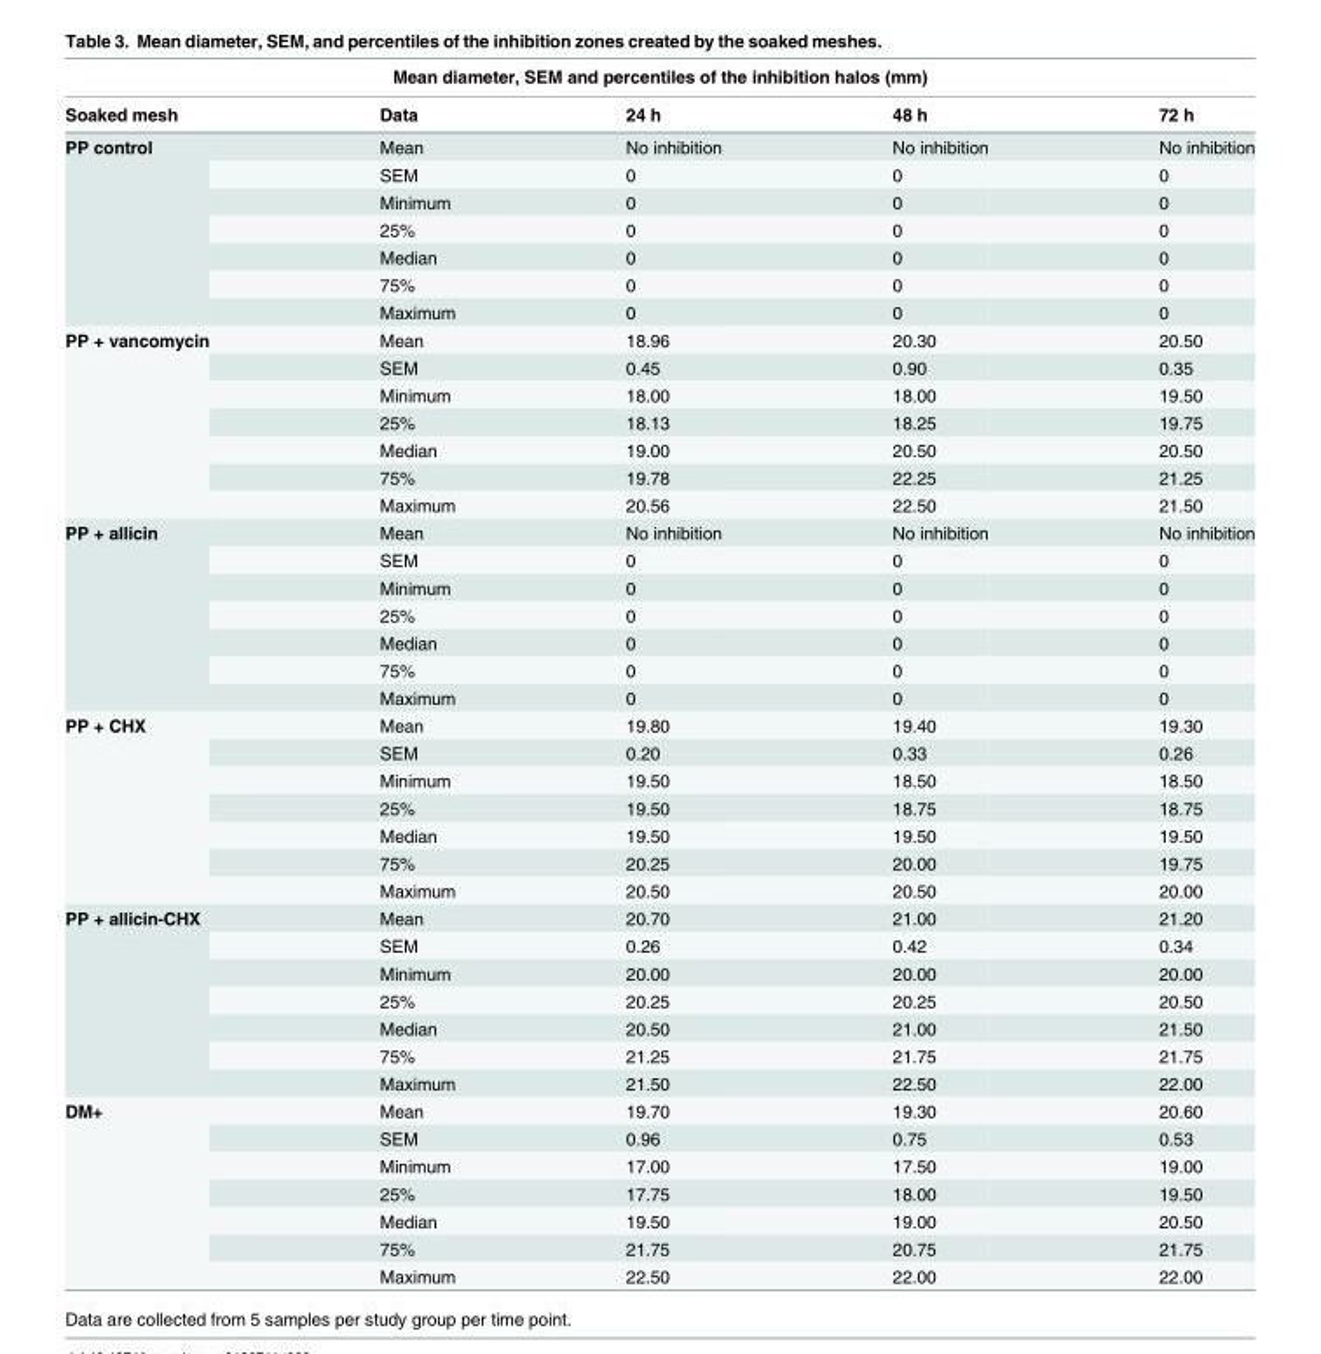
<table><thead><tr><td colspan="5">Mean diameter, SEM and percentiles of the inhibition halos (mm)</td></tr><tr><td>Soaked mesh</td><td>Data</td><td>24 h</td><td>48 h</td><td>72 h</td></tr></thead><tbody><tr><td rowspan="7">PP control</td><td>Mean</td><td>No inhibition</td><td>No inhibition</td><td>No inhibition</td></tr><tr><td>SEM</td><td>0</td><td>0</td><td>0</td></tr><tr><td>Minimum</td><td>0</td><td>0</td><td>0</td></tr><tr><td>25%</td><td>0</td><td>0</td><td>0</td></tr><tr><td>Median</td><td>0</td><td>0</td><td>0</td></tr><tr><td>75%</td><td>0</td><td>0</td><td>0</td></tr><tr><td>Maximum</td><td>0</td><td>0</td><td>0</td></tr><tr><td rowspan="7">PP + vancomycin</td><td>Mean</td><td>18.96</td><td>20.30</td><td>20.50</td></tr><tr><td>SEM</td><td>0.45</td><td>0.90</td><td>0.35</td></tr><tr><td>Minimum</td><td>18.00</td><td>18.00</td><td>19.50</td></tr><tr><td>25%</td><td>18.13</td><td>18.25</td><td>19.75</td></tr><tr><td>Median</td><td>19.00</td><td>20.50</td><td>20.50</td></tr><tr><td>75%</td><td>19.78</td><td>22.25</td><td>21.25</td></tr><tr><td>Maximum</td><td>20.56</td><td>22.50</td><td>21.50</td></tr><tr><td rowspan="7">PP + allicin</td><td>Mean</td><td>No inhibition</td><td>No inhibition</td><td>No inhibition</td></tr><tr><td>SEM</td><td>0</td><td>0</td><td>0</td></tr><tr><td>Minimum</td><td>0</td><td>0</td><td>0</td></tr><tr><td>25%</td><td>0</td><td>0</td><td>0</td></tr><tr><td>Median</td><td>0</td><td>0</td><td>0</td></tr><tr><td>75%</td><td>0</td><td>0</td><td>0</td></tr><tr><td>Maximum</td><td>0</td><td>0</td><td>0</td></tr><tr><td rowspan="7">PP + CHX</td><td>Mean</td><td>19.80</td><td>19.40</td><td>19.30</td></tr><tr><td>SEM</td><td>0.20</td><td>0.33</td><td>0.26</td></tr><tr><td>Minimum</td><td>19.50</td><td>18.50</td><td>18.50</td></tr><tr><td>25%</td><td>19.50</td><td>18.75</td><td>18.75</td></tr><tr><td>Median</td><td>19.50</td><td>19.50</td><td>19.50</td></tr><tr><td>75%</td><td>20.25</td><td>20.00</td><td>19.75</td></tr><tr><td>Maximum</td><td>20.50</td><td>20.50</td><td>20.00</td></tr><tr><td rowspan="7">PP + allicin-CHX</td><td>Mean</td><td>20.70</td><td>21.00</td><td>21.20</td></tr><tr><td>SEM</td><td>0.26</td><td>0.42</td><td>0.34</td></tr><tr><td>Minimum</td><td>20.00</td><td>20.00</td><td>20.00</td></tr><tr><td>25%</td><td>20.25</td><td>20.25</td><td>20.50</td></tr><tr><td>Median</td><td>20.50</td><td>21.00</td><td>21.50</td></tr><tr><td>75%</td><td>21.25</td><td>21.75</td><td>21.75</td></tr><tr><td>Maximum</td><td>21.50</td><td>22.50</td><td>22.00</td></tr><tr><td rowspan="7">DM+</td><td>Mean</td><td>19.70</td><td>19.30</td><td>20.60</td></tr><tr><td>SEM</td><td>0.96</td><td>0.75</td><td>0.53</td></tr><tr><td>Minimum</td><td>17.00</td><td>17.50</td><td>19.00</td></tr><tr><td>25%</td><td>17.75</td><td>18.00</td><td>19.50</td></tr><tr><td>Median</td><td>19.50</td><td>19.00</td><td>20.50</td></tr><tr><td>75%</td><td>21.75</td><td>20.75</td><td>21.75</td></tr><tr><td>Maximum</td><td>22.50</td><td>22.00</td><td>22.00</td></tr></tbody></table>